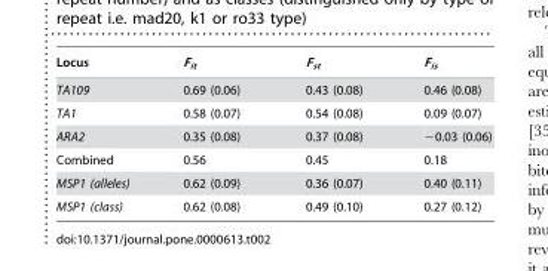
<table><thead><tr><td>Locus</td><td>F<sub>it</sub></td><td>F<sub>st</sub></td><td>F<sub>is</sub></td></tr></thead><tbody><tr><td>TA109</td><td>0.69 (0.06)</td><td>0.43 (0.08)</td><td>0.46 (0.08)</td></tr><tr><td>TA1</td><td>0.58 (0.07)</td><td>0.54 (0.08)</td><td>0.09 (0.07)</td></tr><tr><td>ARA2</td><td>0.35 (0.08)</td><td>0.37 (0.08)</td><td>−0.03 (0.06)</td></tr><tr><td>Combined</td><td>0.56</td><td>0.45</td><td>0.18</td></tr><tr><td>MSP1 (alleles)</td><td>0.62 (0.09)</td><td>0.36 (0.07)</td><td>0.40 (0.11)</td></tr><tr><td>MSP1 (class)</td><td>0.62 (0.08)</td><td>0.49 (0.10)</td><td>0.27 (0.12)</td></tr></tbody></table>